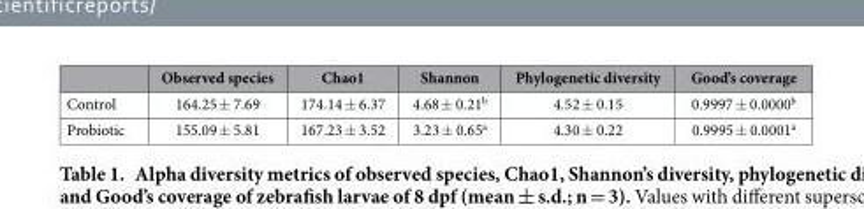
<table><thead><tr><td></td><td>Observed species</td><td>Chao1</td><td>Shannon</td><td>Phylogenetic diversity</td><td>Good’s coverage</td></tr></thead><tbody><tr><td>Control</td><td>164.25 ± 7.69</td><td>174.14 ± 6.37</td><td>4.68 ± 0.21<sup>b</sup></td><td>4.52 ± 0.15</td><td>0.9997 ± 0.0000<sup>b</sup></td></tr><tr><td>Probiotic</td><td>155.09 ± 5.81</td><td>167.23 ± 3.52</td><td>3.23 ± 0.65<sup>a</sup></td><td>4.30 ± 0.22</td><td>0.9995 ± 0.0001<sup>a</sup></td></tr></tbody></table>